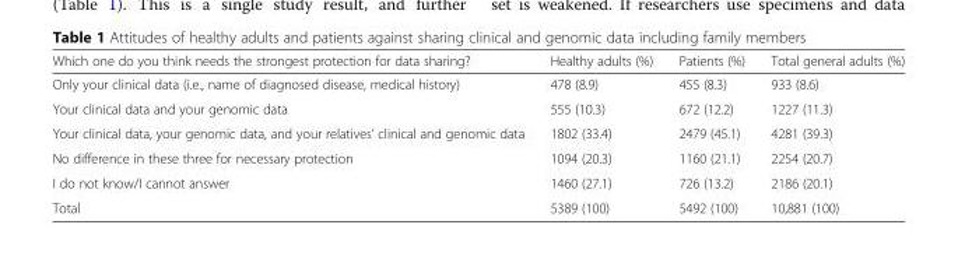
<table><thead><tr><td>Which one do you think needs the strongest protection for data sharing?</td><td>Healthy adults (%)</td><td>Patients (%)</td><td>Total general adults (%)</td></tr></thead><tbody><tr><td>Only your clinical data (i.e., name of diagnosed disease, medical history)</td><td>478 (8.9)</td><td>455 (8.3)</td><td>933 (8.6)</td></tr><tr><td>Your clinical data and your genomic data</td><td>555 (10.3)</td><td>672 (12.2)</td><td>1227 (11.3)</td></tr><tr><td>Your clinical data, your genomic data, and your relatives’ clinical and genomic data</td><td>1802 (33.4)</td><td>2479 (45.1)</td><td>4281 (39.3)</td></tr><tr><td>No difference in these three for necessary protection</td><td>1094 (20.3)</td><td>1160 (21.1)</td><td>2254 (20.7)</td></tr><tr><td>I do not know/I cannot answer</td><td>1460 (27.1)</td><td>726 (13.2)</td><td>2186 (20.1)</td></tr><tr><td>Total</td><td>5389 (100)</td><td>5492 (100)</td><td>10,881 (100)</td></tr></tbody></table>